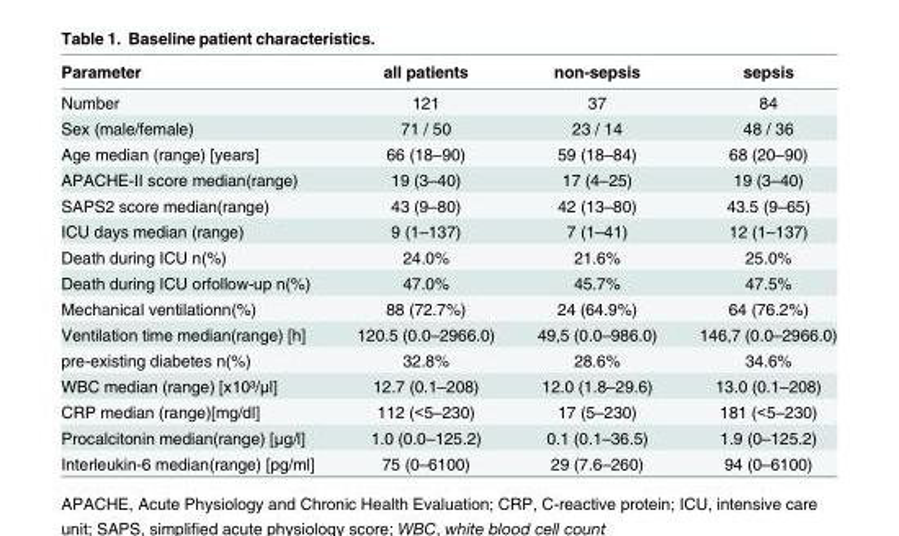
<table><thead><tr><td>Parameter</td><td>all patients</td><td>non-sepsis</td><td>sepsis</td></tr></thead><tbody><tr><td>Number</td><td>121</td><td>37</td><td>84</td></tr><tr><td>Sex (male/female)</td><td>71 / 50</td><td>23 / 14</td><td>48 / 36</td></tr><tr><td>Age median (range) [years]</td><td>66 (18–90)</td><td>59 (18–84)</td><td>68 (20–90)</td></tr><tr><td>APACHE-II score median(range)</td><td>19 (3–40)</td><td>17 (4–25)</td><td>19 (3–40)</td></tr><tr><td>SAPS2 score median(range)</td><td>43 (9–80)</td><td>42 (13–80)</td><td>43.5 (9–65)</td></tr><tr><td>ICU days median (range)</td><td>9 (1–137)</td><td>7 (1–41)</td><td>12 (1–137)</td></tr><tr><td>Death during ICU n(%)</td><td>24.0%</td><td>21.6%</td><td>25.0%</td></tr><tr><td>Death during ICU orfollow-up n(%)</td><td>47.0%</td><td>45.7%</td><td>47.5%</td></tr><tr><td>Mechanical ventilationn(%)</td><td>88 (72.7%)</td><td>24 (64.9%)</td><td>64 (76.2%)</td></tr><tr><td>Ventilation time median(range) [h]</td><td>120.5 (0.0–2966.0)</td><td>49,5 (0.0–986.0)</td><td>146,7 (0.0–2966.0)</td></tr><tr><td>pre-existing diabetes n(%)</td><td>32.8%</td><td>28.6%</td><td>34.6%</td></tr><tr><td>WBC median (range) [x10³/μl]</td><td>12.7 (0.1–208)</td><td>12.0 (1.8–29.6)</td><td>13.0 (0.1–208)</td></tr><tr><td>CRP median (range)[mg/dl]</td><td>112 (&lt;5–230)</td><td>17 (5–230)</td><td>181 (&lt;5–230)</td></tr><tr><td>Procalcitonin median(range) [μg/l]</td><td>1.0 (0.0–125.2)</td><td>0.1 (0.1–36.5)</td><td>1.9 (0–125.2)</td></tr><tr><td>Interleukin-6 median(range) [pg/ml]</td><td>75 (0–6100)</td><td>29 (7.6–260)</td><td>94 (0–6100)</td></tr></tbody></table>